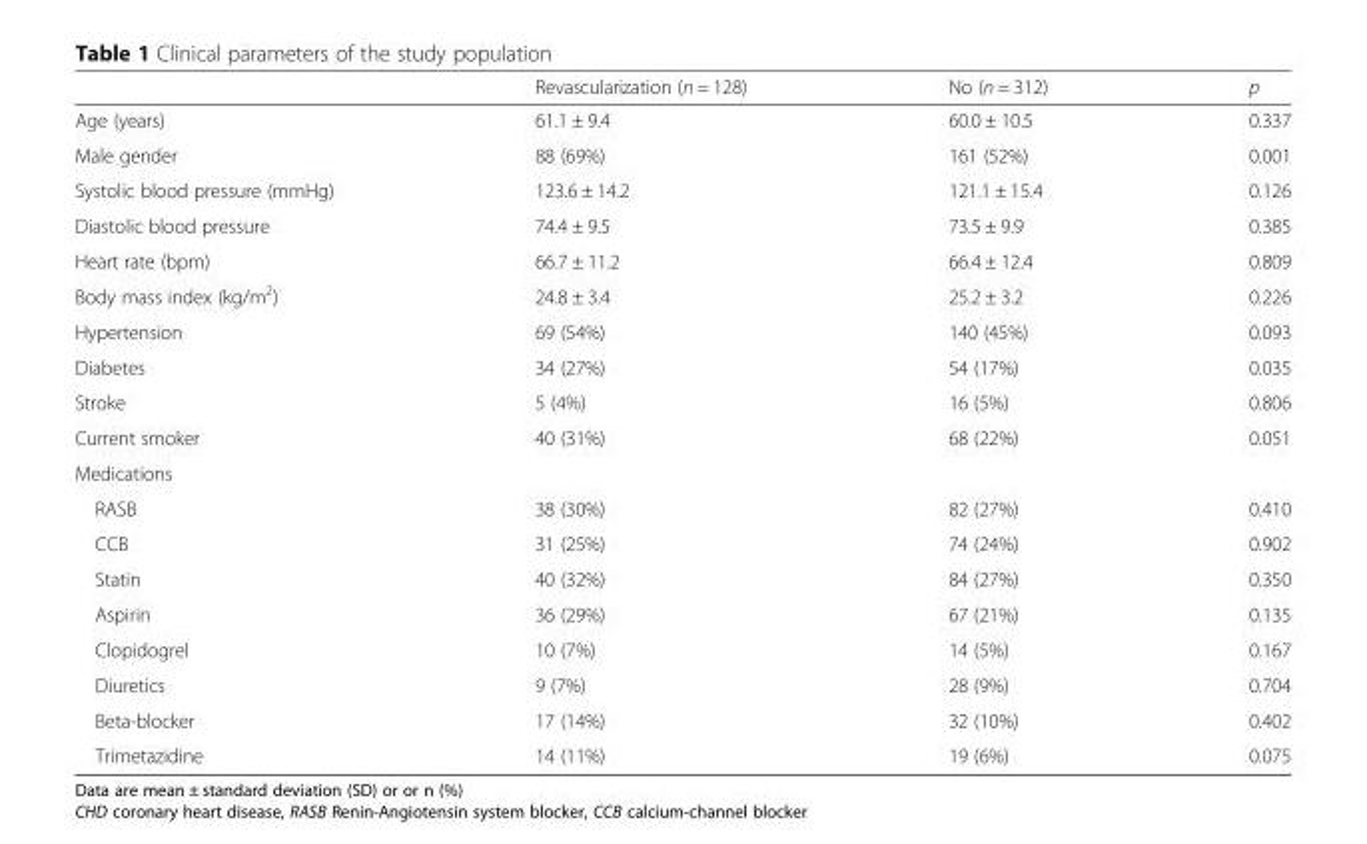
<table><thead><tr><td></td><td>Revascularization (n = 128)</td><td>No (n = 312)</td><td>p</td></tr></thead><tbody><tr><td>Age (years)</td><td>61.1 ± 9.4</td><td>60.0 ± 10.5</td><td>0.337</td></tr><tr><td>Male gender</td><td>88 (69%)</td><td>161 (52%)</td><td>0.001</td></tr><tr><td>Systolic blood pressure (mmHg)</td><td>123.6 ± 14.2</td><td>121.1 ± 15.4</td><td>0.126</td></tr><tr><td>Diastolic blood pressure</td><td>74.4 ± 9.5</td><td>73.5 ± 9.9</td><td>0.385</td></tr><tr><td>Heart rate (bpm)</td><td>66.7 ± 11.2</td><td>66.4 ± 12.4</td><td>0.809</td></tr><tr><td>Body mass index (kg/m<sup>2</sup>)</td><td>24.8 ± 3.4</td><td>25.2 ± 3.2</td><td>0.226</td></tr><tr><td>Hypertension</td><td>69 (54%)</td><td>140 (45%)</td><td>0.093</td></tr><tr><td>Diabetes</td><td>34 (27%)</td><td>54 (17%)</td><td>0.035</td></tr><tr><td>Stroke</td><td>5 (4%)</td><td>16 (5%)</td><td>0.806</td></tr><tr><td>Current smoker</td><td>40 (31%)</td><td>68 (22%)</td><td>0.051</td></tr><tr><td colspan="4">Medications</td></tr><tr><td>RASB</td><td>38 (30%)</td><td>82 (27%)</td><td>0.410</td></tr><tr><td>CCB</td><td>31 (25%)</td><td>74 (24%)</td><td>0.902</td></tr><tr><td>Statin</td><td>40 (32%)</td><td>84 (27%)</td><td>0.350</td></tr><tr><td>Aspirin</td><td>36 (29%)</td><td>67 (21%)</td><td>0.135</td></tr><tr><td>Clopidogrel</td><td>10 (7%)</td><td>14 (5%)</td><td>0.167</td></tr><tr><td>Diuretics</td><td>9 (7%)</td><td>28 (9%)</td><td>0.704</td></tr><tr><td>Beta-blocker</td><td>17 (14%)</td><td>32 (10%)</td><td>0.402</td></tr><tr><td>Trimetazidine</td><td>14 (11%)</td><td>19 (6%)</td><td>0.075</td></tr></tbody></table>